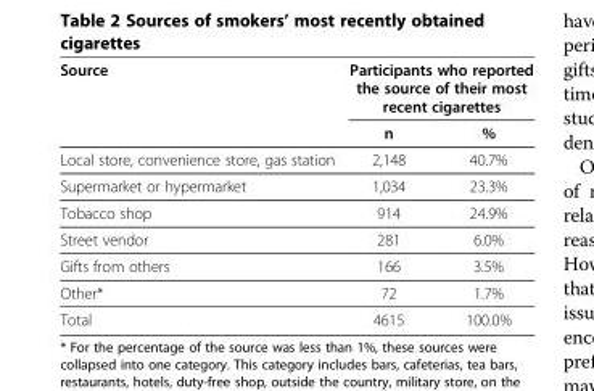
<table><thead><tr><td rowspan="2">Source</td><td colspan="2">Participants who reported the source of their most recent cigarettes</td></tr><tr><td>n</td><td>%</td></tr></thead><tbody><tr><td>Local store, convenience store, gas station</td><td>2,148</td><td>40.7%</td></tr><tr><td>Supermarket or hypermarket</td><td>1,034</td><td>23.3%</td></tr><tr><td>Tobacco shop</td><td>914</td><td>24.9%</td></tr><tr><td>Street vendor</td><td>281</td><td>6.0%</td></tr><tr><td>Gifts from others</td><td>166</td><td>3.5%</td></tr><tr><td>Other*</td><td>72</td><td>1.7%</td></tr><tr><td>Total</td><td>4615</td><td>100.0%</td></tr></tbody></table>